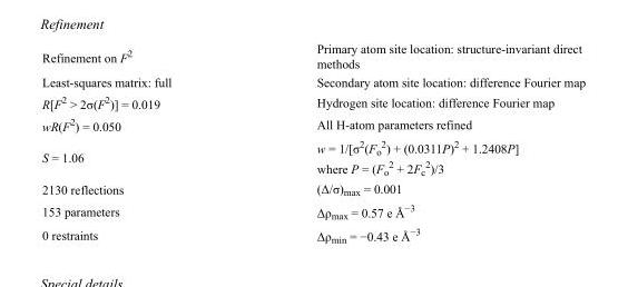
<table><tbody><tr><td>Refinement on F<sup>2</sup></td><td>Primary atom site location: structure-invariant direct methods</td></tr><tr><td>Least-squares matrix: full</td><td>Secondary atom site location: difference Fourier map</td></tr><tr><td>R[F<sup>2</sup> &gt; 2σ(F<sup>2</sup>)] = 0.019</td><td>Hydrogen site location: difference Fourier map</td></tr><tr><td>wR(F<sup>2</sup>) = 0.050</td><td>All H-atom parameters refined</td></tr><tr><td>S = 1.06</td><td>w = 1/[σ<sup>2</sup>(F<sub>o</sub> <sup>2</sup>) + (0.0311P)<sup>2</sup> + 1.2408P] where P = (F<sub>o</sub> <sup>2</sup> + 2F<sub>c</sub> <sup>2</sup>)/3</td></tr><tr><td>2130 reflections</td><td>(Δ/σ)<sub>max</sub> = 0.001</td></tr><tr><td>153 parameters</td><td>Δρ<sub>max</sub> = 0.57 e Å<sup>−3</sup></td></tr><tr><td>0 restraints</td><td>Δρ<sub>min</sub> = −0.43 e Å<sup>−3</sup></td></tr></tbody></table>